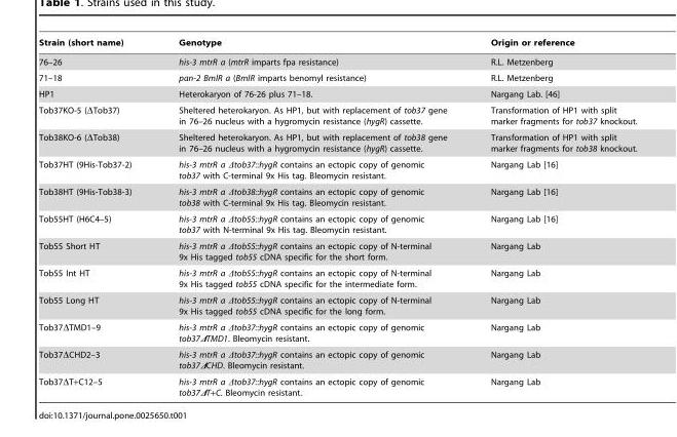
<table><thead><tr><td>Strain (short name)</td><td>Genotype</td><td>Origin or reference</td></tr></thead><tbody><tr><td>76–26</td><td>his-3 mtrR a (mtrR imparts fpa resistance)</td><td>R.L. Metzenberg</td></tr><tr><td>71–18</td><td>pan-2 BmlR a (BmlR imparts benomyl resistance)</td><td>R.L. Metzenberg</td></tr><tr><td>HP1</td><td>Heterokaryon of 76-26 plus 71–18.</td><td>Nargang Lab. [46]</td></tr><tr><td>Tob37KO-5 (ΔTob37)</td><td>Sheltered heterokaryon. As HP1, but with replacement of tob37 gene in 76–26 nucleus with a hygromycin resistance (hygR) cassette.</td><td>Transformation of HP1 with split marker fragments for tob37 knockout.</td></tr><tr><td>Tob38KO-6 (ΔTob38)</td><td>Sheltered heterokaryon. As HP1, but with replacement of tob38 gene in 76–26 nucleus with a hygromycin resistance (hygR) cassette.</td><td>Transformation of HP1 with split marker fragments for tob38 knockout.</td></tr><tr><td>Tob37HT (9His-Tob37-2)</td><td>his-3 mtrR a Δtob37::hygR contains an ectopic copy of genomic tob37 with C-terminal 9x His tag. Bleomycin resistant.</td><td>Nargang Lab [16]</td></tr><tr><td>Tob38HT (9His-Tob38-3)</td><td>his-3 mtrR a Δtob38::hygR contains an ectopic copy of genomic tob38 with C-terminal 9x His tag. Bleomycin resistant.</td><td>Nargang Lab [16]</td></tr><tr><td>Tob55HT (H6C4–5)</td><td>his-3 mtrR a Δtob55::hygR contains an ectopic copy of genomic tob37 with N-terminal 9x His tag. Bleomycin resistant.</td><td>Nargang Lab [16]</td></tr><tr><td>Tob55 Short HT</td><td>his-3 mtrR a Δtob55::hygR contains an ectopic copy of N-terminal 9x His tagged tob55 cDNA specific for the short form.</td><td>Nargang Lab</td></tr><tr><td>Tob55 Int HT</td><td>his-3 mtrR a Δtob55::hygR contains an ectopic copy of N-terminal 9x His tagged tob55 cDNA specific for the intermediate form.</td><td>Nargang Lab</td></tr><tr><td>Tob55 Long HT</td><td>his-3 mtrR a Δtob55::hygR contains an ectopic copy of N-terminal 9x His tagged tob55 cDNA specific for the long form.</td><td>Nargang Lab</td></tr><tr><td>Tob37ΔTMD1–9</td><td>his-3 mtrR a Δtob37::hygR contains an ectopic copy of genomic tob37ΔTMD1. Bleomycin resistant.</td><td>Nargang Lab</td></tr><tr><td>Tob37ΔCHD2–3</td><td>his-3 mtrR a Δtob37::hygR contains an ectopic copy of genomic tob37ΔCHD. Bleomycin resistant.</td><td>Nargang Lab</td></tr><tr><td>Tob37ΔT+C12–5</td><td>his-3 mtrR a Δtob37::hygR contains an ectopic copy of genomic tob37ΔT+C. Bleomycin resistant.</td><td>Nargang Lab</td></tr></tbody></table>